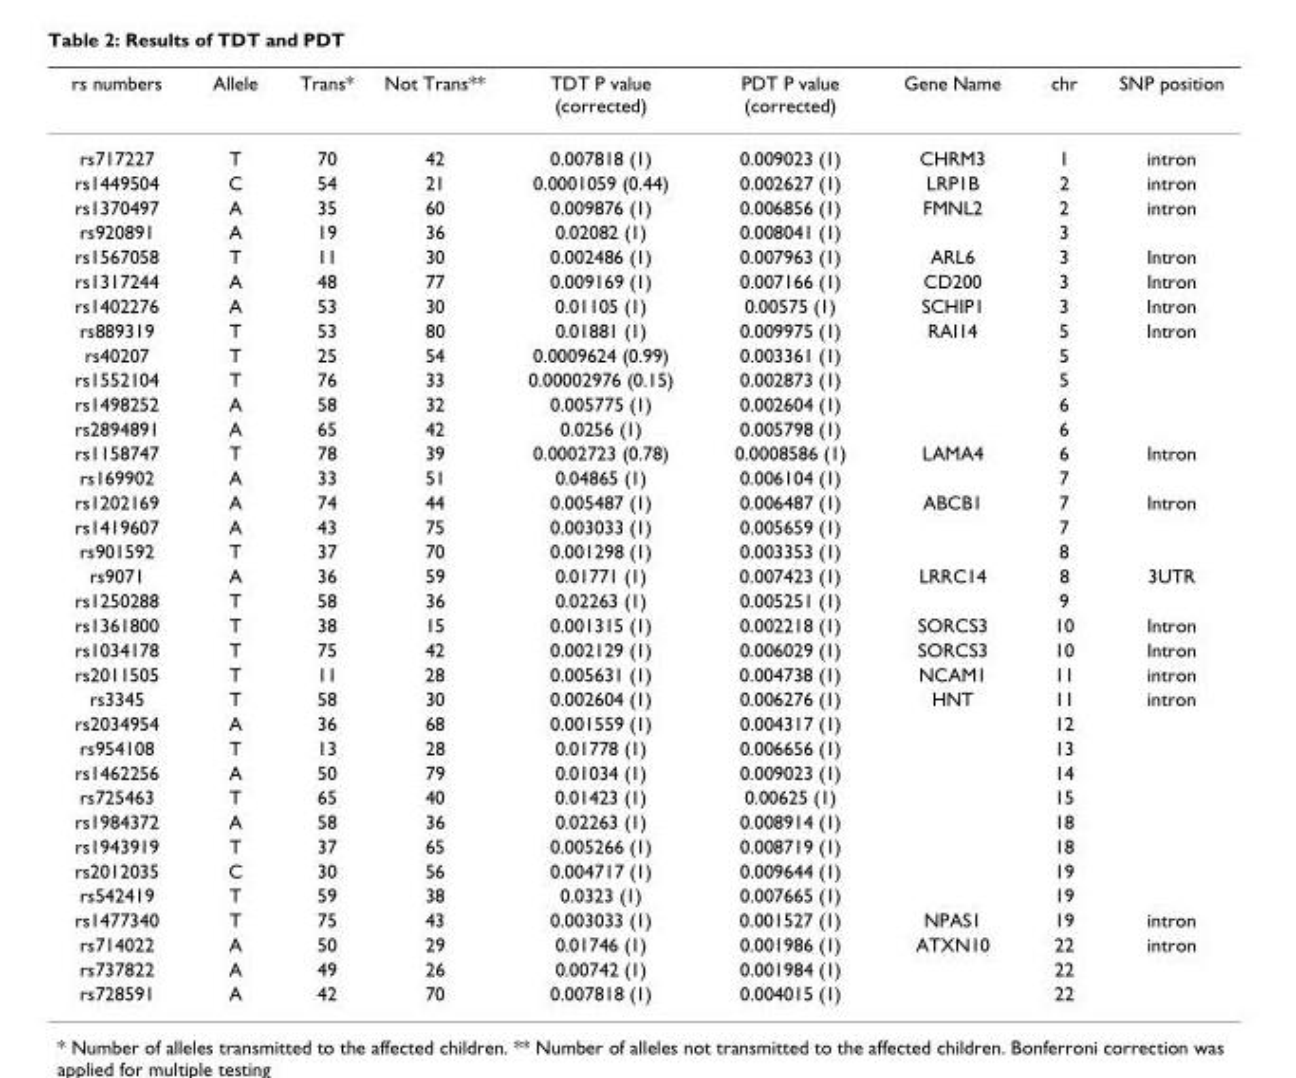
<table><thead><tr><td>rs numbers</td><td>Allele</td><td>Trans*</td><td>Not Trans**</td><td>TDT P value (corrected)</td><td>PDT P value (corrected)</td><td>Gene Name</td><td>chr</td><td>SNP position</td></tr></thead><tbody><tr><td>rs717227</td><td>T</td><td>70</td><td>42</td><td>0.007818 (1)</td><td>0.009023 (1)</td><td>CHRM3</td><td>1</td><td>intron</td></tr><tr><td>rs1449504</td><td>C</td><td>54</td><td>21</td><td>0.0001059 (0.44)</td><td>0.002627 (1)</td><td>LRP1B</td><td>2</td><td>intron</td></tr><tr><td>rs1370497</td><td>A</td><td>35</td><td>60</td><td>0.009876 (1)</td><td>0.006856 (1)</td><td>FMNL2</td><td>2</td><td>intron</td></tr><tr><td>rs920891</td><td>A</td><td>19</td><td>36</td><td>0.02082 (1)</td><td>0.008041 (1)</td><td></td><td>3</td><td></td></tr><tr><td>rs1567058</td><td>T</td><td>11</td><td>30</td><td>0.002486 (1)</td><td>0.007963 (1)</td><td>ARL6</td><td>3</td><td>Intron</td></tr><tr><td>rs1317244</td><td>A</td><td>48</td><td>77</td><td>0.009169 (1)</td><td>0.007166 (1)</td><td>CD200</td><td>3</td><td>Intron</td></tr><tr><td>rs1402276</td><td>A</td><td>53</td><td>30</td><td>0.01105 (1)</td><td>0.00575 (1)</td><td>SCHIP1</td><td>3</td><td>Intron</td></tr><tr><td>rs889319</td><td>T</td><td>53</td><td>80</td><td>0.01881 (1)</td><td>0.009975 (1)</td><td>RAI14</td><td>5</td><td>Intron</td></tr><tr><td>rs40207</td><td>T</td><td>25</td><td>54</td><td>0.0009624 (0.99)</td><td>0.003361 (1)</td><td></td><td>5</td><td></td></tr><tr><td>rs1552104</td><td>T</td><td>76</td><td>33</td><td>0.00002976 (0.15)</td><td>0.002873 (1)</td><td></td><td>5</td><td></td></tr><tr><td>rs1498252</td><td>A</td><td>58</td><td>32</td><td>0.005775 (1)</td><td>0.002604 (1)</td><td></td><td>6</td><td></td></tr><tr><td>rs2894891</td><td>A</td><td>65</td><td>42</td><td>0.0256 (1)</td><td>0.005798 (1)</td><td></td><td>6</td><td></td></tr><tr><td>rs1158747</td><td>T</td><td>78</td><td>39</td><td>0.0002723 (0.78)</td><td>0.0008586 (1)</td><td>LAMA4</td><td>6</td><td>Intron</td></tr><tr><td>rs169902</td><td>A</td><td>33</td><td>51</td><td>0.04865 (1)</td><td>0.006104 (1)</td><td></td><td>7</td><td></td></tr><tr><td>rs1202169</td><td>A</td><td>74</td><td>44</td><td>0.005487 (1)</td><td>0.006487 (1)</td><td>ABCB1</td><td>7</td><td>Intron</td></tr><tr><td>rs1419607</td><td>A</td><td>43</td><td>75</td><td>0.003033 (1)</td><td>0.005659 (1)</td><td></td><td>7</td><td></td></tr><tr><td>rs901592</td><td>T</td><td>37</td><td>70</td><td>0.001298 (1)</td><td>0.003353 (1)</td><td></td><td>8</td><td></td></tr><tr><td>rs9071</td><td>A</td><td>36</td><td>59</td><td>0.01771 (1)</td><td>0.007423 (1)</td><td>LRRC14</td><td>8</td><td>3UTR</td></tr><tr><td>rs1250288</td><td>T</td><td>58</td><td>36</td><td>0.02263 (1)</td><td>0.005251 (1)</td><td></td><td>9</td><td></td></tr><tr><td>rs1361800</td><td>T</td><td>38</td><td>15</td><td>0.001315 (1)</td><td>0.002218 (1)</td><td>SORCS3</td><td>10</td><td>Intron</td></tr><tr><td>rs1034178</td><td>T</td><td>75</td><td>42</td><td>0.002129 (1)</td><td>0.006029 (1)</td><td>SORCS3</td><td>10</td><td>Intron</td></tr><tr><td>rs2011505</td><td>T</td><td>11</td><td>28</td><td>0.005631 (1)</td><td>0.004738 (1)</td><td>NCAM1</td><td>11</td><td>intron</td></tr><tr><td>rs3345</td><td>T</td><td>58</td><td>30</td><td>0.002604 (1)</td><td>0.006276 (1)</td><td>HNT</td><td>11</td><td>intron</td></tr><tr><td>rs2034954</td><td>A</td><td>36</td><td>68</td><td>0.001559 (1)</td><td>0.004317 (1)</td><td></td><td>12</td><td></td></tr><tr><td>rs954108</td><td>T</td><td>13</td><td>28</td><td>0.01778 (1)</td><td>0.006656 (1)</td><td></td><td>13</td><td></td></tr><tr><td>rs1462256</td><td>A</td><td>50</td><td>79</td><td>0.01034 (1)</td><td>0.009023 (1)</td><td></td><td>14</td><td></td></tr><tr><td>rs725463</td><td>T</td><td>65</td><td>40</td><td>0.01423 (1)</td><td>0.00625 (1)</td><td></td><td>15</td><td></td></tr><tr><td>rs1984372</td><td>A</td><td>58</td><td>36</td><td>0.02263 (1)</td><td>0.008914 (1)</td><td></td><td>18</td><td></td></tr><tr><td>rs1943919</td><td>T</td><td>37</td><td>65</td><td>0.005266 (1)</td><td>0.008719 (1)</td><td></td><td>18</td><td></td></tr><tr><td>rs2012035</td><td>C</td><td>30</td><td>56</td><td>0.004717 (1)</td><td>0.009644 (1)</td><td></td><td>19</td><td></td></tr><tr><td>rs542419</td><td>T</td><td>59</td><td>38</td><td>0.0323 (1)</td><td>0.007665 (1)</td><td></td><td>19</td><td></td></tr><tr><td>rs1477340</td><td>T</td><td>75</td><td>43</td><td>0.003033 (1)</td><td>0.001527 (1)</td><td>NPAS1</td><td>19</td><td>intron</td></tr><tr><td>rs714022</td><td>A</td><td>50</td><td>29</td><td>0.01746 (1)</td><td>0.001986 (1)</td><td>ATXN10</td><td>22</td><td>intron</td></tr><tr><td>rs737822</td><td>A</td><td>49</td><td>26</td><td>0.00742 (1)</td><td>0.001984 (1)</td><td></td><td>22</td><td></td></tr><tr><td>rs728591</td><td>A</td><td>42</td><td>70</td><td>0.007818 (1)</td><td>0.004015 (1)</td><td></td><td>22</td><td></td></tr></tbody></table>